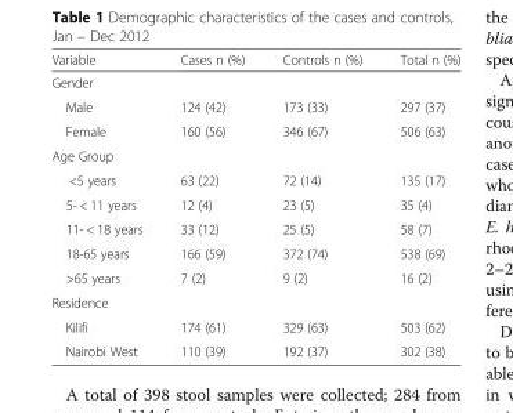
<table><thead><tr><td>Variable</td><td>Cases n (%)</td><td>Controls n (%)</td><td>Total n (%)</td></tr></thead><tbody><tr><td colspan="4">Gender</td></tr><tr><td>Male</td><td>124 (42)</td><td>173 (33)</td><td>297 (37)</td></tr><tr><td>Female</td><td>160 (56)</td><td>346 (67)</td><td>506 (63)</td></tr><tr><td colspan="4">Age Group</td></tr><tr><td>&lt;5 years</td><td>63 (22)</td><td>72 (14)</td><td>135 (17)</td></tr><tr><td>5- &lt; 11 years</td><td>12 (4)</td><td>23 (5)</td><td>35 (4)</td></tr><tr><td>11- &lt; 18 years</td><td>33 (12)</td><td>25 (5)</td><td>58 (7)</td></tr><tr><td>18-65 years</td><td>166 (59)</td><td>372 (74)</td><td>538 (69)</td></tr><tr><td>&gt;65 years</td><td>7 (2)</td><td>9 (2)</td><td>16 (2)</td></tr><tr><td colspan="4">Residence</td></tr><tr><td>Kilifi</td><td>174 (61)</td><td>329 (63)</td><td>503 (62)</td></tr><tr><td>Nairobi West</td><td>110 (39)</td><td>192 (37)</td><td>302 (38)</td></tr></tbody></table>